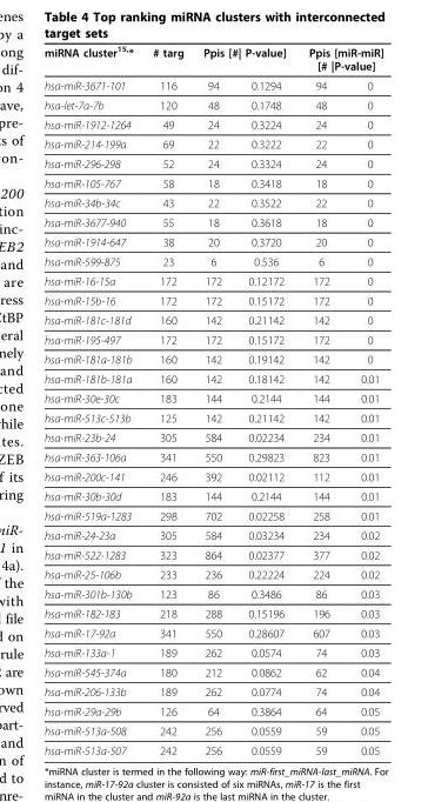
<table><thead><tr><td rowspan="2">miRNA cluster<sup>15,</sup>* hsa-miR-3671-101</td><td rowspan="2"># targ 116</td><td colspan="2">Ppis [#| P-value]</td><td colspan="2">Ppis [miR-miR] [# |P-value]</td></tr><tr><td>94</td><td>0.1294</td><td>94</td><td>0</td></tr></thead><tbody><tr><td>hsa-let-7a-7b</td><td>120</td><td>48</td><td>0.1748</td><td>48</td><td>0</td></tr><tr><td>hsa-miR-1912-1264</td><td>49</td><td>24</td><td>0.3224</td><td>24</td><td>0</td></tr><tr><td>hsa-miR-214-199a</td><td>69</td><td>22</td><td>0.3222</td><td>22</td><td>0</td></tr><tr><td>hsa-miR-296-298</td><td>52</td><td>24</td><td>0.3324</td><td>24</td><td>0</td></tr><tr><td>hsa-miR-105-767</td><td>58</td><td>18</td><td>0.3418</td><td>18</td><td>0</td></tr><tr><td>hsa-miR-34b-34c</td><td>43</td><td>22</td><td>0.3522</td><td>22</td><td>0</td></tr><tr><td>hsa-miR-3677-940</td><td>55</td><td>18</td><td>0.3618</td><td>18</td><td>0</td></tr><tr><td>hsa-miR-1914-647</td><td>38</td><td>20</td><td>0.3720</td><td>20</td><td>0</td></tr><tr><td>hsa-miR-599-875</td><td>23</td><td>6</td><td>0.536</td><td>6</td><td>0</td></tr><tr><td>hsa-miR-16-15a</td><td>172</td><td>172</td><td>0.12172</td><td>172</td><td>0</td></tr><tr><td>hsa-miR-15b-16</td><td>172</td><td>172</td><td>0.15172</td><td>172</td><td>0</td></tr><tr><td>hsa-miR-181c-181d</td><td>160</td><td>142</td><td>0.21142</td><td>142</td><td>0</td></tr><tr><td>hsa-miR-195-497</td><td>172</td><td>172</td><td>0.15172</td><td>172</td><td>0</td></tr><tr><td>hsa-miR-181a-181b</td><td>160</td><td>142</td><td>0.19142</td><td>142</td><td>0</td></tr><tr><td>hsa-miR-181b-181a</td><td>160</td><td>142</td><td>0.18142</td><td>142</td><td>0.01</td></tr><tr><td>hsa-miR-30e-30c</td><td>183</td><td>144</td><td>0.2144</td><td>144</td><td>0.01</td></tr><tr><td>hsa-miR-513c-513b</td><td>125</td><td>142</td><td>0.21142</td><td>142</td><td>0.01</td></tr><tr><td>hsa-miR-23b-24</td><td>305</td><td>584</td><td>0.02234</td><td>234</td><td>0.01</td></tr><tr><td>hsa-miR-363-106a</td><td>341</td><td>550</td><td>0.29823</td><td>823</td><td>0.01</td></tr><tr><td>hsa-miR-200c-141</td><td>246</td><td>392</td><td>0.02112</td><td>112</td><td>0.01</td></tr><tr><td>hsa-miR-30b-30d</td><td>183</td><td>144</td><td>0.2144</td><td>144</td><td>0.01</td></tr><tr><td>hsa-miR-519a-1283</td><td>298</td><td>702</td><td>0.02258</td><td>258</td><td>0.01</td></tr><tr><td>hsa-miR-24-23a</td><td>305</td><td>584</td><td>0.03234</td><td>234</td><td>0.02</td></tr><tr><td>hsa-miR-522-1283</td><td>323</td><td>864</td><td>0.02377</td><td>377</td><td>0.02</td></tr><tr><td>hsa-miR-25-106b</td><td>233</td><td>236</td><td>0.22224</td><td>224</td><td>0.02</td></tr><tr><td>hsa-miR-301b-130b</td><td>123</td><td>86</td><td>0.3486</td><td>86</td><td>0.03</td></tr><tr><td>hsa-miR-182-183</td><td>218</td><td>288</td><td>0.15196</td><td>196</td><td>0.03</td></tr><tr><td>hsa-miR-17-92a</td><td>341</td><td>550</td><td>0.28607</td><td>607</td><td>0.03</td></tr><tr><td>hsa-miR-133a-1</td><td>189</td><td>262</td><td>0.0574</td><td>74</td><td>0.03</td></tr><tr><td>hsa-miR-545-374a</td><td>180</td><td>212</td><td>0.0862</td><td>62</td><td>0.04</td></tr><tr><td>hsa-miR-206-133b</td><td>189</td><td>262</td><td>0.0774</td><td>74</td><td>0.04</td></tr><tr><td>hsa-miR-29a-29b</td><td>126</td><td>64</td><td>0.3864</td><td>64</td><td>0.05</td></tr><tr><td>hsa-miR-513a-508</td><td>242</td><td>256</td><td>0.0559</td><td>59</td><td>0.05</td></tr><tr><td>hsa-miR-513a-507</td><td>242</td><td>256</td><td>0.0559</td><td>59</td><td>0.05</td></tr></tbody></table>